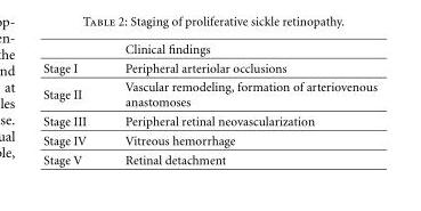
<table><thead><tr><td></td><td>Clinical findings</td></tr></thead><tbody><tr><td>Stage I</td><td>Peripheral arteriolar occlusions</td></tr><tr><td>Stage II</td><td>Vascular remodeling, formation of arteriovenous anastomoses</td></tr><tr><td>Stage III</td><td>Peripheral retinal neovascularization</td></tr><tr><td>Stage IV</td><td>Vitreous hemorrhage</td></tr><tr><td>Stage V</td><td>Retinal detachment</td></tr></tbody></table>